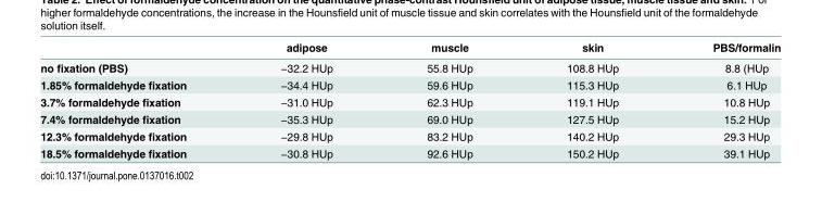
<table><thead><tr><td></td><td>adipose</td><td>muscle</td><td>skin</td><td>PBS/formalin</td></tr></thead><tbody><tr><td>no fixation (PBS)</td><td>−32.2 HUp</td><td>55.8 HUp</td><td>108.8 HUp</td><td>8.8 (HUp</td></tr><tr><td>1.85% formaldehyde fixation</td><td>−34.4 HUp</td><td>59.6 HUp</td><td>115.3 HUp</td><td>6.1 HUp</td></tr><tr><td>3.7% formaldehyde fixation</td><td>−31.0 HUp</td><td>62.3 HUp</td><td>119.1 HUp</td><td>10.8 HUp</td></tr><tr><td>7.4% formaldehyde fixation</td><td>−35.3 HUp</td><td>69.0 HUp</td><td>127.5 HUp</td><td>15.2 HUp</td></tr><tr><td>12.3% formaldehyde fixation</td><td>−29.8 HUp</td><td>83.2 HUp</td><td>140.2 HUp</td><td>29.3 HUp</td></tr><tr><td>18.5% formaldehyde fixation</td><td>−30.8 HUp</td><td>92.6 HUp</td><td>150.2 HUp</td><td>39.1 HUp</td></tr></tbody></table>